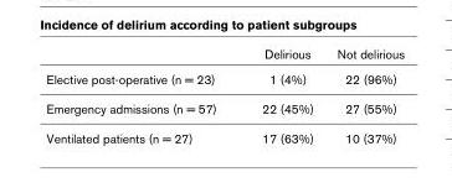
<table><thead><tr><td></td><td>Delirious</td><td>Not delirious</td></tr></thead><tbody><tr><td>Elective post-operative (n = 23)</td><td>1 (4%)</td><td>22 (96%)</td></tr><tr><td>Emergency admissions (n = 57)</td><td>22 (45%)</td><td>27 (55%)</td></tr><tr><td>Ventilated patients (n = 27)</td><td>17 (63%)</td><td>10 (37%)</td></tr></tbody></table>